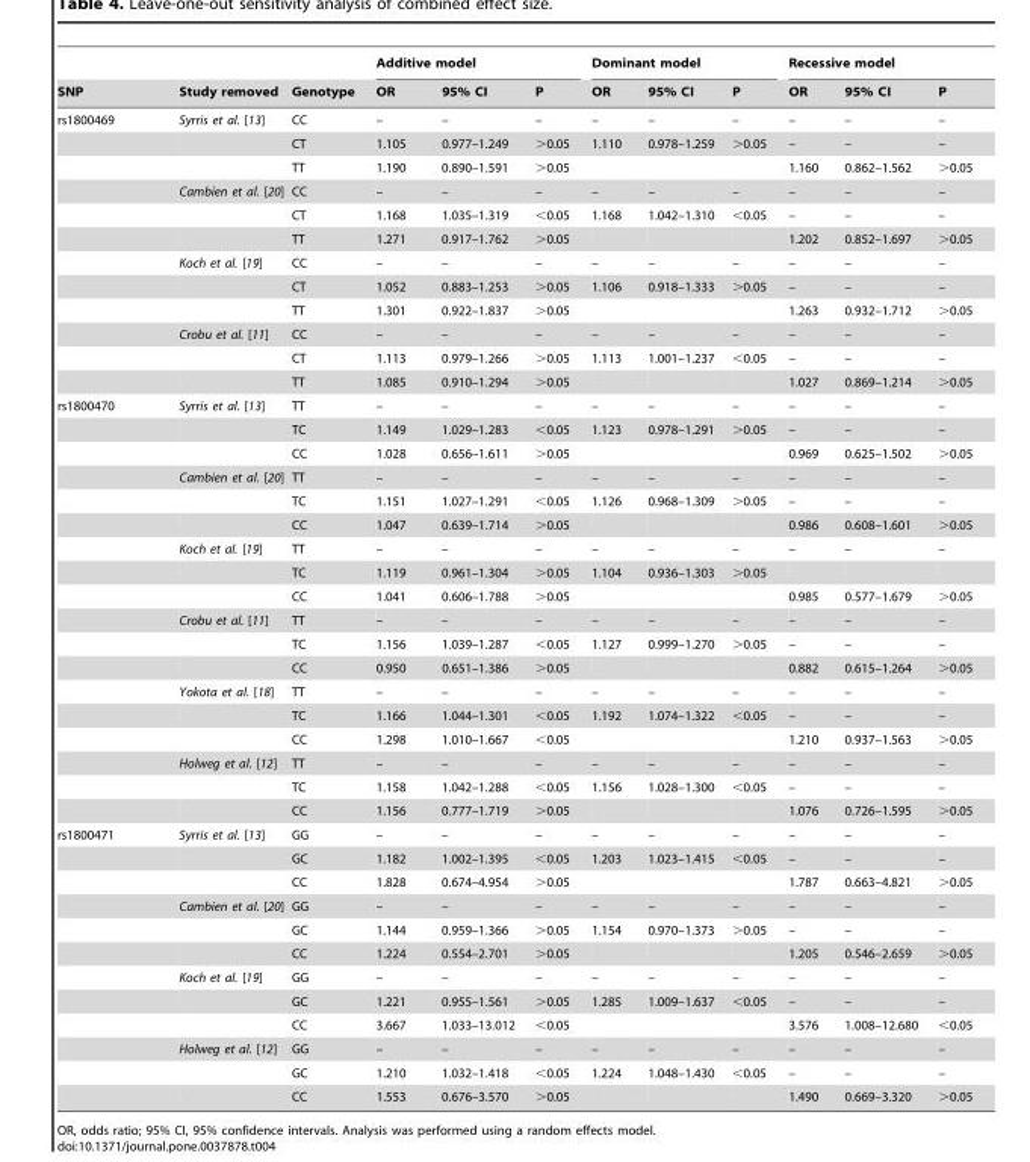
<table><thead><tr><td rowspan="2">SNP</td><td rowspan="2">Study removed</td><td rowspan="2">Genotype</td><td colspan="3">Additive model</td><td colspan="3">Dominant model</td><td colspan="3">Recessive model</td></tr><tr><td>OR</td><td>95% CI</td><td>P</td><td>OR</td><td>95% CI</td><td>P</td><td>OR</td><td>95% CI</td><td>P</td></tr></thead><tbody><tr><td rowspan="12">rs1800469</td><td>Syrris et al. [13]</td><td>CC</td><td>–</td><td>–</td><td>–</td><td>–</td><td>–</td><td>–</td><td>–</td><td>–</td><td>–</td></tr><tr><td></td><td>CT</td><td>1.105</td><td>0.977–1.249</td><td>&gt;0.05</td><td>1.110</td><td>0.978–1.259</td><td>&gt;0.05</td><td>–</td><td>–</td><td>–</td></tr><tr><td></td><td>TT</td><td>1.190</td><td>0.890–1.591</td><td>&gt;0.05</td><td></td><td></td><td></td><td>1.160</td><td>0.862–1.562</td><td>&gt;0.05</td></tr><tr><td>Cambien et al. [20]</td><td>CC</td><td>–</td><td>–</td><td>–</td><td>–</td><td>–</td><td>–</td><td>–</td><td>–</td><td>–</td></tr><tr><td></td><td>CT</td><td>1.168</td><td>1.035–1.319</td><td>&lt;0.05</td><td>1.168</td><td>1.042–1.310</td><td>&lt;0.05</td><td>–</td><td>–</td><td>–</td></tr><tr><td></td><td>TT</td><td>1.271</td><td>0.917–1.762</td><td>&gt;0.05</td><td></td><td></td><td></td><td>1.202</td><td>0.852–1.697</td><td>&gt;0.05</td></tr><tr><td>Koch et al. [19]</td><td>CC</td><td>–</td><td>–</td><td>–</td><td>–</td><td>–</td><td>–</td><td>–</td><td>–</td><td>–</td></tr><tr><td></td><td>CT</td><td>1.052</td><td>0.883–1.253</td><td>&gt;0.05</td><td>1.106</td><td>0.918–1.333</td><td>&gt;0.05</td><td>–</td><td>–</td><td>–</td></tr><tr><td></td><td>TT</td><td>1.301</td><td>0.922–1.837</td><td>&gt;0.05</td><td></td><td></td><td></td><td>1.263</td><td>0.932–1.712</td><td>&gt;0.05</td></tr><tr><td>Crobu et al. [11]</td><td>CC</td><td>–</td><td>–</td><td>–</td><td>–</td><td>–</td><td>–</td><td>–</td><td>–</td><td>–</td></tr><tr><td></td><td>CT</td><td>1.113</td><td>0.979–1.266</td><td>&gt;0.05</td><td>1.113</td><td>1.001–1.237</td><td>&lt;0.05</td><td>–</td><td>–</td><td>–</td></tr><tr><td></td><td>TT</td><td>1.085</td><td>0.910–1.294</td><td>&gt;0.05</td><td></td><td></td><td></td><td>1.027</td><td>0.869–1.214</td><td>&gt;0.05</td></tr><tr><td rowspan="18">rs1800470</td><td>Syrris et al. [13]</td><td>TT</td><td>–</td><td>–</td><td>–</td><td>–</td><td>–</td><td>–</td><td>–</td><td>–</td><td>–</td></tr><tr><td></td><td>TC</td><td>1.149</td><td>1.029–1.283</td><td>&lt;0.05</td><td>1.123</td><td>0.978–1.291</td><td>&gt;0.05</td><td>–</td><td>–</td><td>–</td></tr><tr><td></td><td>CC</td><td>1.028</td><td>0.656–1.611</td><td>&gt;0.05</td><td></td><td></td><td></td><td>0.969</td><td>0.625–1.502</td><td>&gt;0.05</td></tr><tr><td>Cambien et al. [20]</td><td>TT</td><td>–</td><td>–</td><td>–</td><td>–</td><td>–</td><td>–</td><td>–</td><td>–</td><td>–</td></tr><tr><td></td><td>TC</td><td>1.151</td><td>1.027–1.291</td><td>&lt;0.05</td><td>1.126</td><td>0.968–1.309</td><td>&gt;0.05</td><td>–</td><td>–</td><td>–</td></tr><tr><td></td><td>CC</td><td>1.047</td><td>0.639–1.714</td><td>&gt;0.05</td><td></td><td></td><td></td><td>0.986</td><td>0.608–1.601</td><td>&gt;0.05</td></tr><tr><td>Koch et al. [19]</td><td>TT</td><td>–</td><td>–</td><td>–</td><td>–</td><td>–</td><td>–</td><td>–</td><td>–</td><td>–</td></tr><tr><td></td><td>TC</td><td>1.119</td><td>0.961–1.304</td><td>&gt;0.05</td><td>1.104</td><td>0.936–1.303</td><td>&gt;0.05</td><td></td><td></td><td></td></tr><tr><td></td><td>CC</td><td>1.041</td><td>0.606–1.788</td><td>&gt;0.05</td><td></td><td></td><td></td><td>0.985</td><td>0.577–1.679</td><td>&gt;0.05</td></tr><tr><td>Crobu et al. [11]</td><td>TT</td><td>–</td><td>–</td><td>–</td><td>–</td><td>–</td><td>–</td><td>–</td><td>–</td><td>–</td></tr><tr><td></td><td>TC</td><td>1.156</td><td>1.039–1.287</td><td>&lt;0.05</td><td>1.127</td><td>0.999–1.270</td><td>&gt;0.05</td><td>–</td><td>–</td><td>–</td></tr><tr><td></td><td>CC</td><td>0.950</td><td>0.651–1.386</td><td>&gt;0.05</td><td></td><td></td><td></td><td>0.882</td><td>0.615–1.264</td><td>&gt;0.05</td></tr><tr><td>Yokota et al. [18]</td><td>TT</td><td>–</td><td>–</td><td>–</td><td>–</td><td>–</td><td>–</td><td>–</td><td>–</td><td>–</td></tr><tr><td></td><td>TC</td><td>1.166</td><td>1.044–1.301</td><td>&lt;0.05</td><td>1.192</td><td>1.074–1.322</td><td>&lt;0.05</td><td>–</td><td>–</td><td>–</td></tr><tr><td></td><td>CC</td><td>1.298</td><td>1.010–1.667</td><td>&lt;0.05</td><td></td><td></td><td></td><td>1.210</td><td>0.937–1.563</td><td>&gt;0.05</td></tr><tr><td>Holweg et al. [12]</td><td>TT</td><td>–</td><td>–</td><td>–</td><td>–</td><td>–</td><td>–</td><td>–</td><td>–</td><td>–</td></tr><tr><td></td><td>TC</td><td>1.158</td><td>1.042–1.288</td><td>&lt;0.05</td><td>1.156</td><td>1.028–1.300</td><td>&lt;0.05</td><td>–</td><td>–</td><td>–</td></tr><tr><td></td><td>CC</td><td>1.156</td><td>0.777–1.719</td><td>&gt;0.05</td><td></td><td></td><td></td><td>1.076</td><td>0.726–1.595</td><td>&gt;0.05</td></tr><tr><td rowspan="12">rs1800471</td><td>Syrris et al. [13]</td><td>GG</td><td>–</td><td>–</td><td>–</td><td>–</td><td>–</td><td>–</td><td>–</td><td>–</td><td>–</td></tr><tr><td></td><td>GC</td><td>1.182</td><td>1.002–1.395</td><td>&lt;0.05</td><td>1.203</td><td>1.023–1.415</td><td>&lt;0.05</td><td>–</td><td>–</td><td>–</td></tr><tr><td></td><td>CC</td><td>1.828</td><td>0.674–4.954</td><td>&gt;0.05</td><td></td><td></td><td></td><td>1.787</td><td>0.663–4.821</td><td>&gt;0.05</td></tr><tr><td>Cambien et al. [20]</td><td>GG</td><td>–</td><td>–</td><td>–</td><td>–</td><td>–</td><td>–</td><td>–</td><td>–</td><td>–</td></tr><tr><td></td><td>GC</td><td>1.144</td><td>0.959–1.366</td><td>&gt;0.05</td><td>1.154</td><td>0.970–1.373</td><td>&gt;0.05</td><td>–</td><td>–</td><td>–</td></tr><tr><td></td><td>CC</td><td>1.224</td><td>0.554–2.701</td><td>&gt;0.05</td><td></td><td></td><td></td><td>1.205</td><td>0.546–2.659</td><td>&gt;0.05</td></tr><tr><td>Koch et al. [19]</td><td>GG</td><td>–</td><td>–</td><td>–</td><td>–</td><td>–</td><td>–</td><td>–</td><td>–</td><td>–</td></tr><tr><td></td><td>GC</td><td>1.221</td><td>0.955–1.561</td><td>&gt;0.05</td><td>1.285</td><td>1.009–1.637</td><td>&lt;0.05</td><td>–</td><td>–</td><td>–</td></tr><tr><td></td><td>CC</td><td>3.667</td><td>1.033–13.012</td><td>&lt;0.05</td><td></td><td></td><td></td><td>3.576</td><td>1.008–12.680</td><td>&lt;0.05</td></tr><tr><td>Holweg et al. [12]</td><td>GG</td><td>–</td><td>–</td><td>–</td><td>–</td><td>–</td><td>–</td><td>–</td><td>–</td><td>–</td></tr><tr><td></td><td>GC</td><td>1.210</td><td>1.032–1.418</td><td>&lt;0.05</td><td>1.224</td><td>1.048–1.430</td><td>&lt;0.05</td><td>–</td><td>–</td><td>–</td></tr><tr><td></td><td>CC</td><td>1.553</td><td>0.676–3.570</td><td>&gt;0.05</td><td></td><td></td><td></td><td>1.490</td><td>0.669–3.320</td><td>&gt;0.05</td></tr></tbody></table>